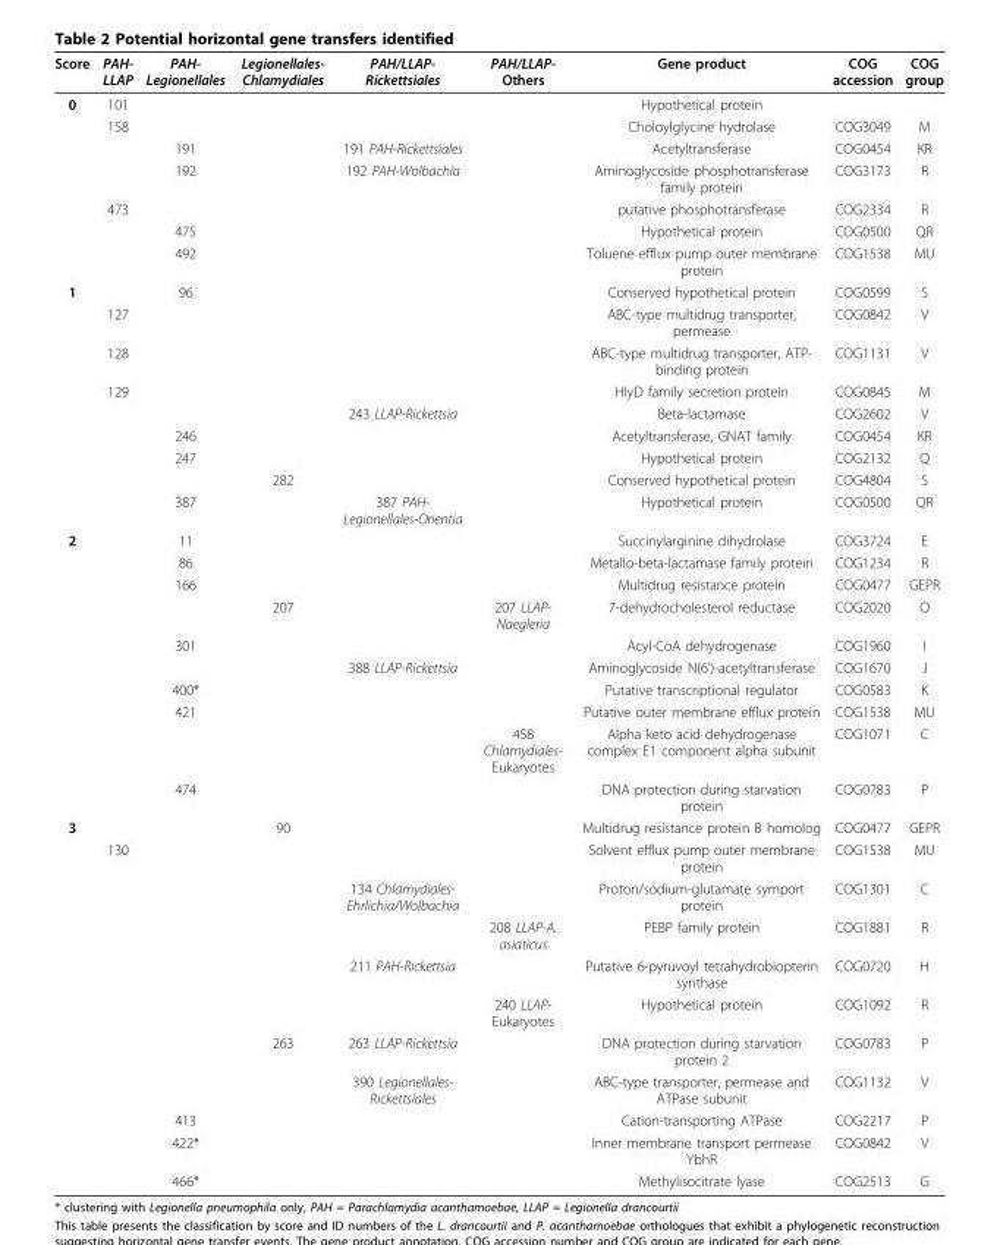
<table><thead><tr><td>Score</td><td>PAH- LLAP</td><td>PAH- Legionellales</td><td>Legionellales- Chlamydiales</td><td>PAH/LLAP- Rickettsiales</td><td>PAH/LLAP- Others</td><td>Gene product</td><td>COG accession</td><td>COG group</td></tr></thead><tbody><tr><td rowspan="7">0</td><td>101</td><td></td><td></td><td></td><td></td><td>Hypothetical protein</td><td></td><td></td></tr><tr><td>158</td><td></td><td></td><td></td><td></td><td>Choloylglycine hydrolase</td><td>COG3049</td><td>M</td></tr><tr><td></td><td>191</td><td></td><td>191 PAH-Rickettsiales</td><td></td><td>Acetyltransferase</td><td>COG0454</td><td>KR</td></tr><tr><td></td><td>192</td><td></td><td>192 PAH-Wolbachia</td><td></td><td>Aminoglycoside phosphotransferase family protein</td><td>COG3173</td><td>R</td></tr><tr><td>473</td><td></td><td></td><td></td><td></td><td>putative phosphotransferase</td><td>COG2334</td><td>R</td></tr><tr><td></td><td>475</td><td></td><td></td><td></td><td>Hypothetical protein</td><td>COG0500</td><td>QR</td></tr><tr><td></td><td>492</td><td></td><td></td><td></td><td>Toluene efflux pump outer membrane protein</td><td>COG1538</td><td>MU</td></tr><tr><td rowspan="9">1</td><td></td><td>96</td><td></td><td></td><td></td><td>Conserved hypothetical protein</td><td>COG0599</td><td>S</td></tr><tr><td>127</td><td></td><td></td><td></td><td></td><td>ABC-type multidrug transporter, permease</td><td>COG0842</td><td>V</td></tr><tr><td>128</td><td></td><td></td><td></td><td></td><td>ABC-type multidrug transporter, ATP- binding protein</td><td>COG1131</td><td>V</td></tr><tr><td>129</td><td></td><td></td><td></td><td></td><td>HlyD family secretion protein</td><td>COG0845</td><td>M</td></tr><tr><td></td><td></td><td></td><td>243 LLAP-Rickettsia</td><td></td><td>Beta-lactamase</td><td>COG2602</td><td>V</td></tr><tr><td></td><td>246</td><td></td><td></td><td></td><td>Acetyltransferase, GNAT family</td><td>COG0454</td><td>KR</td></tr><tr><td></td><td>247</td><td></td><td></td><td></td><td>Hypothetical protein</td><td>COG2132</td><td>Q</td></tr><tr><td></td><td></td><td>282</td><td></td><td></td><td>Conserved hypothetical protein</td><td>COG4804</td><td>S</td></tr><tr><td></td><td>387</td><td></td><td>387 PAH- Legionellales-Orientia</td><td></td><td>Hypothetical protein</td><td>COG0500</td><td>QR</td></tr><tr><td rowspan="10">2</td><td></td><td>11</td><td></td><td></td><td></td><td>Succinylarginine dihydrolase</td><td>COG3724</td><td>E</td></tr><tr><td></td><td>86</td><td></td><td></td><td></td><td>Metallo-beta-lactamase family protein</td><td>COG1234</td><td>R</td></tr><tr><td></td><td>166</td><td></td><td></td><td></td><td>Multidrug resistance protein</td><td>COG0477</td><td>GEPR</td></tr><tr><td></td><td></td><td>207</td><td></td><td>207 LLAP- Naegleria</td><td>7-dehydrocholesterol reductase</td><td>COG2020</td><td>O</td></tr><tr><td></td><td>301</td><td></td><td></td><td></td><td>Acyl-CoA dehydrogenase</td><td>COG1960</td><td>I</td></tr><tr><td></td><td></td><td></td><td>388 LLAP-Rickettsia</td><td></td><td>Aminoglycoside N(6’)-acetyltransferase</td><td>COG1670</td><td>J</td></tr><tr><td></td><td>400*</td><td></td><td></td><td></td><td>Putative transcriptional regulator</td><td>COG0583</td><td>K</td></tr><tr><td></td><td>421</td><td></td><td></td><td></td><td>Putative outer membrane efflux protein</td><td>COG1538</td><td>MU</td></tr><tr><td></td><td></td><td></td><td></td><td>458 Chlamydiales- Eukaryotes</td><td>Alpha keto acid dehydrogenase complex E1 component alpha subunit</td><td>COG1071</td><td>C</td></tr><tr><td></td><td>474</td><td></td><td></td><td></td><td>DNA protection during starvation protein</td><td>COG0783</td><td>P</td></tr><tr><td rowspan="11">3</td><td></td><td></td><td>90</td><td></td><td></td><td>Multidrug resistance protein B homolog</td><td>COG0477</td><td>GEPR</td></tr><tr><td>130</td><td></td><td></td><td></td><td></td><td>Solvent efflux pump outer membrane protein</td><td>COG1538</td><td>MU</td></tr><tr><td></td><td></td><td></td><td>134 Chlamydiales- Ehrlichia/Wolbachia</td><td></td><td>Proton/sodium-glutamate symport protein</td><td>COG1301</td><td>C</td></tr><tr><td></td><td></td><td></td><td></td><td>208 LLAP-A. asiaticus</td><td>PEBP family protein</td><td>COG1881</td><td>R</td></tr><tr><td></td><td></td><td></td><td>211 PAH-Rickettsia</td><td></td><td>Putative 6-pyruvoyl tetrahydrobiopterin synthase</td><td>COG0720</td><td>H</td></tr><tr><td></td><td></td><td></td><td></td><td>240 LLAP- Eukaryotes</td><td>Hypothetical protein</td><td>COG1092</td><td>R</td></tr><tr><td></td><td></td><td>263</td><td>263 LLAP-Rickettsia</td><td></td><td>DNA protection during starvation protein 2</td><td>COG0783</td><td>P</td></tr><tr><td></td><td></td><td></td><td>390 Legionellales- Rickettsiales</td><td></td><td>ABC-type transporter, permease and ATPase subunit</td><td>COG1132</td><td>V</td></tr><tr><td></td><td>413</td><td></td><td></td><td></td><td>Cation-transporting ATPase</td><td>COG2217</td><td>P</td></tr><tr><td></td><td>422*</td><td></td><td></td><td></td><td>Inner membrane transport permease YbhR</td><td>COG0842</td><td>V</td></tr><tr><td></td><td>466*</td><td></td><td></td><td></td><td>Methylisocitrate lyase</td><td>COG2513</td><td>G</td></tr></tbody></table>